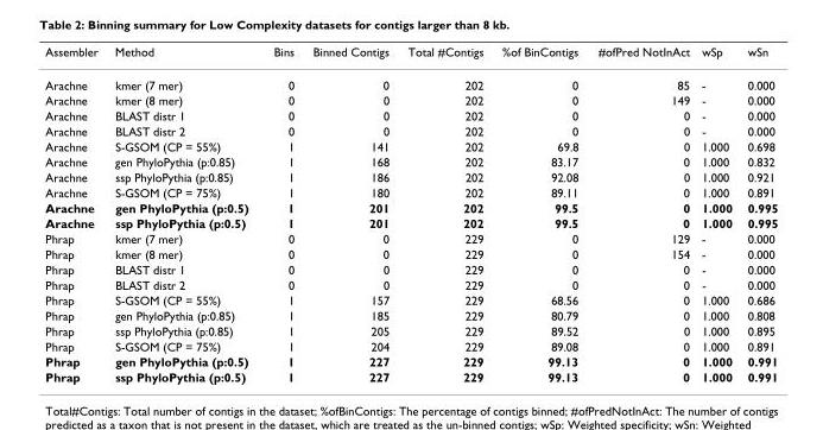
<table><thead><tr><td>Assembler</td><td>Method</td><td>Bins</td><td>Binned Contigs</td><td>Total #Contigs</td><td>%of BinContigs</td><td>#ofPred NotInAct</td><td>wSp</td><td>wSn</td></tr></thead><tbody><tr><td>Arachne</td><td>kmer (7 mer)</td><td>0</td><td>0</td><td>202</td><td>0</td><td>85</td><td>-</td><td>0.000</td></tr><tr><td>Arachne</td><td>kmer (8 mer)</td><td>0</td><td>0</td><td>202</td><td>0</td><td>149</td><td>-</td><td>0.000</td></tr><tr><td>Arachne</td><td>BLAST distr 1</td><td>0</td><td>0</td><td>202</td><td>0</td><td>0</td><td>-</td><td>0.000</td></tr><tr><td>Arachne</td><td>BLAST distr 2</td><td>0</td><td>0</td><td>202</td><td>0</td><td>0</td><td>-</td><td>0.000</td></tr><tr><td>Arachne</td><td>S-GSOM (CP = 55%)</td><td>1</td><td>141</td><td>202</td><td>69.8</td><td>0</td><td>1.000</td><td>0.698</td></tr><tr><td>Arachne</td><td>gen PhyloPythia (p:0.85)</td><td>1</td><td>168</td><td>202</td><td>83.17</td><td>0</td><td>1.000</td><td>0.832</td></tr><tr><td>Arachne</td><td>ssp PhyloPythia (p:0.85)</td><td>1</td><td>186</td><td>202</td><td>92.08</td><td>0</td><td>1.000</td><td>0.921</td></tr><tr><td>Arachne</td><td>S-GSOM (CP = 75%)</td><td>1</td><td>180</td><td>202</td><td>89.11</td><td>0</td><td>1.000</td><td>0.891</td></tr><tr><td>Arachne</td><td>gen PhyloPythia (p:0.5)</td><td>1</td><td>201</td><td>202</td><td>99.5</td><td>0</td><td>1.000</td><td>0.995</td></tr><tr><td>Arachne</td><td>ssp PhyloPythia (p:0.5)</td><td>1</td><td>201</td><td>202</td><td>99.5</td><td>0</td><td>1.000</td><td>0.995</td></tr><tr><td>Phrap</td><td>kmer (7 mer)</td><td>0</td><td>0</td><td>229</td><td>0</td><td>129</td><td>-</td><td>0.000</td></tr><tr><td>Phrap</td><td>kmer (8 mer)</td><td>0</td><td>0</td><td>229</td><td>0</td><td>154</td><td>-</td><td>0.000</td></tr><tr><td>Phrap</td><td>BLAST distr 1</td><td>0</td><td>0</td><td>229</td><td>0</td><td>0</td><td>-</td><td>0.000</td></tr><tr><td>Phrap</td><td>BLAST distr 2</td><td>0</td><td>0</td><td>229</td><td>0</td><td>0</td><td>-</td><td>0.000</td></tr><tr><td>Phrap</td><td>S-GSOM (CP = 55%)</td><td>1</td><td>157</td><td>229</td><td>68.56</td><td>0</td><td>1.000</td><td>0.686</td></tr><tr><td>Phrap</td><td>gen PhyloPythia (p:0.85)</td><td>1</td><td>185</td><td>229</td><td>80.79</td><td>0</td><td>1.000</td><td>0.808</td></tr><tr><td>Phrap</td><td>ssp PhyloPythia (p:0.85)</td><td>1</td><td>205</td><td>229</td><td>89.52</td><td>0</td><td>1.000</td><td>0.895</td></tr><tr><td>Phrap</td><td>S-GSOM (CP = 75%)</td><td>1</td><td>204</td><td>229</td><td>89.08</td><td>0</td><td>1.000</td><td>0.891</td></tr><tr><td>Phrap</td><td>gen PhyloPythia (p:0.5)</td><td>1</td><td>227</td><td>229</td><td>99.13</td><td>0</td><td>1.000</td><td>0.991</td></tr><tr><td>Phrap</td><td>ssp PhyloPythia (p:0.5)</td><td>1</td><td>227</td><td>229</td><td>99.13</td><td>0</td><td>1.000</td><td>0.991</td></tr></tbody></table>